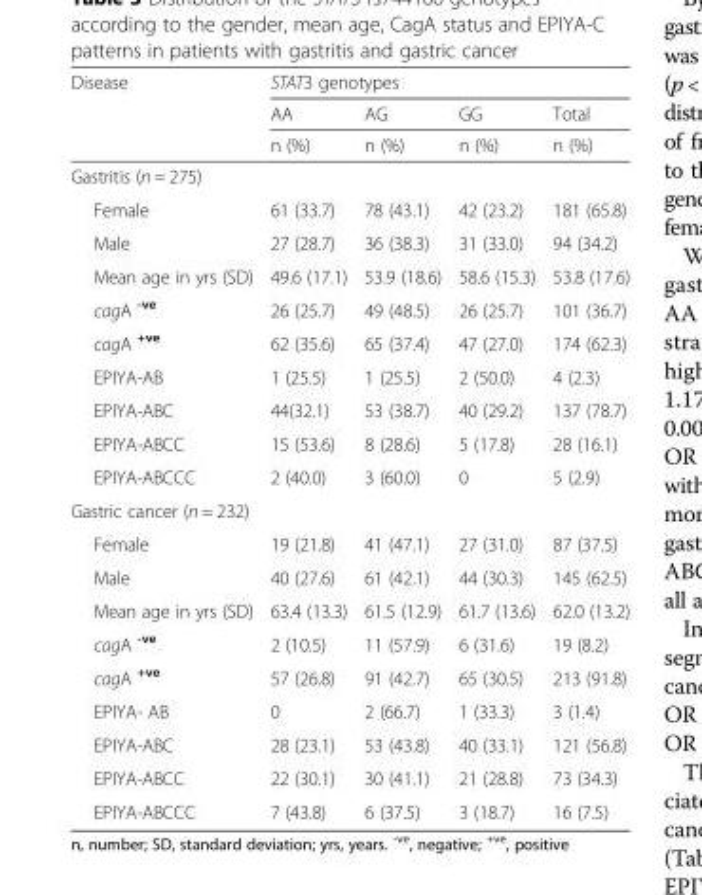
<table><thead><tr><td rowspan="3">Disease</td><td colspan="4">STAT3 genotypes</td></tr><tr><td rowspan="2">AA n (%)</td><td rowspan="2">AG n (%)</td><td rowspan="2">GG n (%)</td><td rowspan="2">Total n (%)</td></tr><tr></tr></thead><tbody><tr><td colspan="5">Gastritis (n = 275)</td></tr><tr><td>Female</td><td>61 (33.7)</td><td>78 (43.1)</td><td>42 (23.2)</td><td>181 (65.8)</td></tr><tr><td>Male</td><td>27 (28.7)</td><td>36 (38.3)</td><td>31 (33.0)</td><td>94 (34.2)</td></tr><tr><td>Mean age in yrs (SD)</td><td>49.6 (17.1)</td><td>53.9 (18.6)</td><td>58.6 (15.3)</td><td>53.8 (17.6)</td></tr><tr><td>cagA <sup>-ve</sup></td><td>26 (25.7)</td><td>49 (48.5)</td><td>26 (25.7)</td><td>101 (36.7)</td></tr><tr><td>cagA <sup>+ve</sup></td><td>62 (35.6)</td><td>65 (37.4)</td><td>47 (27.0)</td><td>174 (62.3)</td></tr><tr><td>EPIYA-AB</td><td>1 (25.5)</td><td>1 (25.5)</td><td>2 (50.0)</td><td>4 (2.3)</td></tr><tr><td>EPIYA-ABC</td><td>44(32.1)</td><td>53 (38.7)</td><td>40 (29.2)</td><td>137 (78.7)</td></tr><tr><td>EPIYA-ABCC</td><td>15 (53.6)</td><td>8 (28.6)</td><td>5 (17.8)</td><td>28 (16.1)</td></tr><tr><td>EPIYA-ABCCC</td><td>2 (40.0)</td><td>3 (60.0)</td><td>0</td><td>5 (2.9)</td></tr><tr><td colspan="5">Gastric cancer (n = 232)</td></tr><tr><td>Female</td><td>19 (21.8)</td><td>41 (47.1)</td><td>27 (31.0)</td><td>87 (37.5)</td></tr><tr><td>Male</td><td>40 (27.6)</td><td>61 (42.1)</td><td>44 (30.3)</td><td>145 (62.5)</td></tr><tr><td>Mean age in yrs (SD)</td><td>63.4 (13.3)</td><td>61.5 (12.9)</td><td>61.7 (13.6)</td><td>62.0 (13.2)</td></tr><tr><td>cagA <sup>-ve</sup></td><td>2 (10.5)</td><td>11 (57.9)</td><td>6 (31.6)</td><td>19 (8.2)</td></tr><tr><td>cagA <sup>+ve</sup></td><td>57 (26.8)</td><td>91 (42.7)</td><td>65 (30.5)</td><td>213 (91.8)</td></tr><tr><td>EPIYA- AB</td><td>0</td><td>2 (66.7)</td><td>1 (33.3)</td><td>3 (1.4)</td></tr><tr><td>EPIYA-ABC</td><td>28 (23.1)</td><td>53 (43.8)</td><td>40 (33.1)</td><td>121 (56.8)</td></tr><tr><td>EPIYA-ABCC</td><td>22 (30.1)</td><td>30 (41.1)</td><td>21 (28.8)</td><td>73 (34.3)</td></tr><tr><td>EPIYA-ABCCC</td><td>7 (43.8)</td><td>6 (37.5)</td><td>3 (18.7)</td><td>16 (7.5)</td></tr></tbody></table>